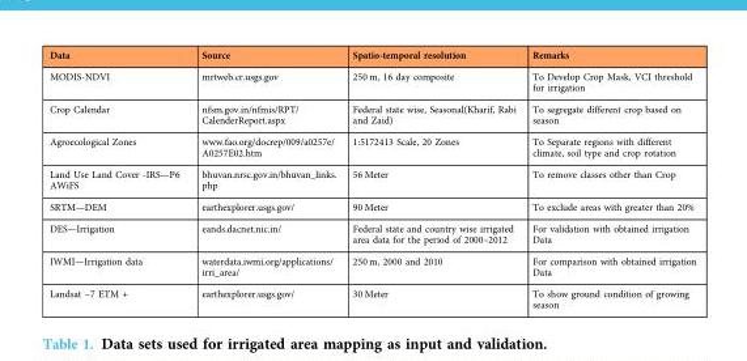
<table><thead><tr><td>Data</td><td>Source</td><td>Spatio-temporal resolution</td><td>Remarks</td></tr></thead><tbody><tr><td>MODIS-NDVI</td><td>mrtweb.cr.usgs.gov</td><td>250 m, 16 day composite</td><td>To Develop Crop Mask, VCI threshold for irrigation</td></tr><tr><td>Crop Calendar</td><td>nfsm.gov.in/nfmis/RPT/ CalenderReport.aspx</td><td>Federal state wise, Seasonal(Kharif, Rabi and Zaid)</td><td>To segregate different crop based on season</td></tr><tr><td>Agroecological Zones</td><td>www.fao.org/docrep/009/a0257e/ A0257E02.htm</td><td>1:5172413 Scale, 20 Zones</td><td>To Separate regions with different climate, soil type and crop rotation</td></tr><tr><td>Land Use Land Cover -IRS—P6 AWiFS</td><td>bhuvan.nrsc.gov.in/bhuvan_links. php</td><td>56 Meter</td><td>To remove classes other than Crop</td></tr><tr><td>SRTM—DEM</td><td>earthexplorer.usgs.gov/</td><td>90 Meter</td><td>To exclude areas with greater than 20%</td></tr><tr><td>DES—Irrigation</td><td>eands.dacnet.nic.in/</td><td>Federal state and country wise irrigated area data for the period of 2000–2012</td><td>For validation with obtained irrigation Data</td></tr><tr><td>IWMI—Irrigation data</td><td>waterdata.iwmi.org/applications/ irri_area/</td><td>250 m, 2000 and 2010</td><td>For comparison with obtained irrigation Data</td></tr><tr><td>Landsat −7 ETM +</td><td>earthexplorer.usgs.gov/</td><td>30 Meter</td><td>To show ground condition of growing season</td></tr></tbody></table>